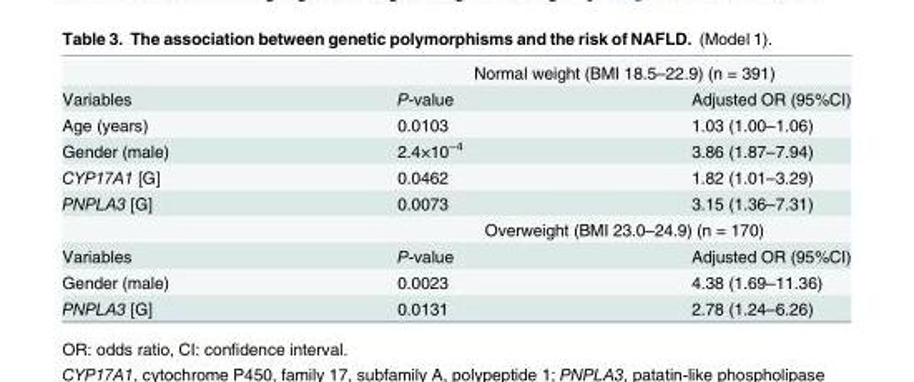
<table><thead><tr><td rowspan="2">Variables</td><td colspan="2">Normal weight (BMI 18.5–22.9) (n = 391)</td></tr><tr><td>P-value</td><td>Adjusted OR (95%CI)</td></tr></thead><tbody><tr><td>Age (years)</td><td>0.0103</td><td>1.03 (1.00–1.06)</td></tr><tr><td>Gender (male)</td><td>2.4×10<sup>−4</sup></td><td>3.86 (1.87–7.94)</td></tr><tr><td>CYP17A1 [G]</td><td>0.0462</td><td>1.82 (1.01–3.29)</td></tr><tr><td rowspan="2">PNPLA3 [G]</td><td>0.0073</td><td>3.15 (1.36–7.31)</td></tr><tr><td colspan="2">Overweight (BMI 23.0–24.9) (n = 170)</td></tr><tr><td>Variables</td><td>P-value</td><td>Adjusted OR (95%CI)</td></tr><tr><td>Gender (male)</td><td>0.0023</td><td>4.38 (1.69–11.36)</td></tr><tr><td>PNPLA3 [G]</td><td>0.0131</td><td>2.78 (1.24–6.26)</td></tr></tbody></table>